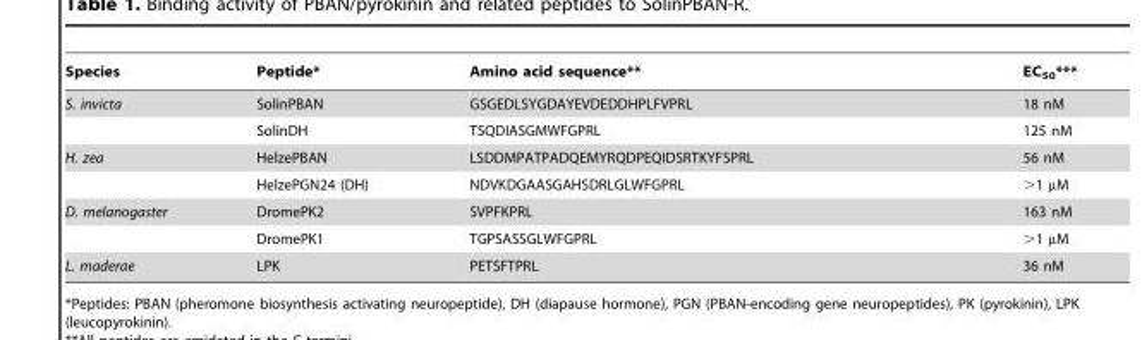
<table><thead><tr><td>Species</td><td>Peptide*</td><td>Amino acid sequence**</td><td>EC<sub>50</sub>***</td></tr></thead><tbody><tr><td rowspan="2">S. invicta</td><td>SolinPBAN</td><td>GSGEDLSYGDAYEVDEDDHPLFVPRL</td><td>18 nM</td></tr><tr><td>SolinDH</td><td>TSQDIASGMWFGPRL</td><td>125 nM</td></tr><tr><td rowspan="2">H. zea</td><td>HelzePBAN</td><td>LSDDMPATPADQEMYRQDPEQIDSRTKYFSPRL</td><td>56 nM</td></tr><tr><td>HelzePGN24 (DH)</td><td>NDVKDGAASGAHSDRLGLWFGPRL</td><td>&gt;1 µM</td></tr><tr><td rowspan="2">D. melanogaster</td><td>DromePK2</td><td>SVPFKPRL</td><td>163 nM</td></tr><tr><td>DromePK1</td><td>TGPSASSGLWFGPRL</td><td>&gt;1 µM</td></tr><tr><td>L. maderae</td><td>LPK</td><td>PETSFTPRL</td><td>36 nM</td></tr></tbody></table>